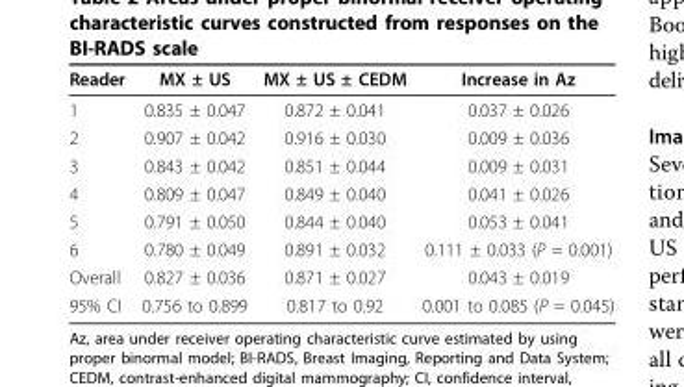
<table><thead><tr><td>Reader</td><td>MX ± US</td><td>MX ± US ± CEDM</td><td>Increase in Az</td></tr></thead><tbody><tr><td>1</td><td>0.835 ± 0.047</td><td>0.872 ± 0.041</td><td>0.037 ± 0.026</td></tr><tr><td>2</td><td>0.907 ± 0.042</td><td>0.916 ± 0.030</td><td>0.009 ± 0.036</td></tr><tr><td>3</td><td>0.843 ± 0.042</td><td>0.851 ± 0.044</td><td>0.009 ± 0.031</td></tr><tr><td>4</td><td>0.809 ± 0.047</td><td>0.849 ± 0.040</td><td>0.041 ± 0.026</td></tr><tr><td>5</td><td>0.791 ± 0.050</td><td>0.844 ± 0.040</td><td>0.053 ± 0.041</td></tr><tr><td>6</td><td>0.780 ± 0.049</td><td>0.891 ± 0.032</td><td>0.111 ± 0.033 (P = 0.001)</td></tr><tr><td>Overall</td><td>0.827 ± 0.036</td><td>0.871 ± 0.027</td><td>0.043 ± 0.019</td></tr><tr><td>95% CI</td><td>0.756 to 0.899</td><td>0.817 to 0.92</td><td>0.001 to 0.085 (P = 0.045)</td></tr></tbody></table>